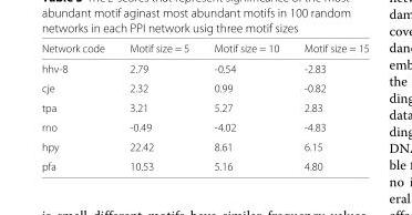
<table><thead><tr><td>Network code</td><td>Motif size = 5</td><td>Motif size = 10</td><td>Motif size = 15</td></tr></thead><tbody><tr><td>hhv-8</td><td>2.79</td><td>-0.54</td><td>-2.83</td></tr><tr><td>cje</td><td>2.32</td><td>0.99</td><td>-0.82</td></tr><tr><td>tpa</td><td>3.21</td><td>5.27</td><td>2.83</td></tr><tr><td>rno</td><td>-0.49</td><td>-4.02</td><td>-4.83</td></tr><tr><td>hpy</td><td>22.42</td><td>8.61</td><td>6.15</td></tr><tr><td>pfa</td><td>10.53</td><td>5.16</td><td>4.80</td></tr></tbody></table>